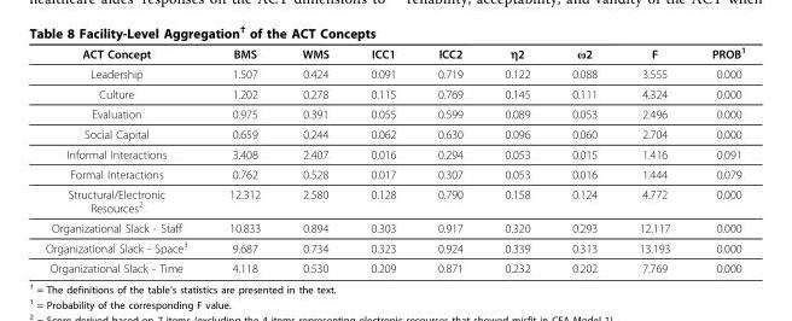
<table><thead><tr><td>ACT Concept</td><td>BMS</td><td>WMS</td><td>ICC1</td><td>ICC2</td><td>η2</td><td>ω2</td><td>F</td><td>PROB<sup>1</sup></td></tr></thead><tbody><tr><td>Leadership</td><td>1.507</td><td>0.424</td><td>0.091</td><td>0.719</td><td>0.122</td><td>0.088</td><td>3.555</td><td>0.000</td></tr><tr><td>Culture</td><td>1.202</td><td>0.278</td><td>0.115</td><td>0.769</td><td>0.145</td><td>0.111</td><td>4.324</td><td>0.000</td></tr><tr><td>Evaluation</td><td>0.975</td><td>0.391</td><td>0.055</td><td>0.599</td><td>0.089</td><td>0.053</td><td>2.496</td><td>0.000</td></tr><tr><td>Social Capital</td><td>0.659</td><td>0.244</td><td>0.062</td><td>0.630</td><td>0.096</td><td>0.060</td><td>2.704</td><td>0.000</td></tr><tr><td>Informal Interactions</td><td>3.408</td><td>2.407</td><td>0.016</td><td>0.294</td><td>0.053</td><td>0.015</td><td>1.416</td><td>0.091</td></tr><tr><td>Formal Interactions</td><td>0.762</td><td>0.528</td><td>0.017</td><td>0.307</td><td>0.053</td><td>0.016</td><td>1.444</td><td>0.079</td></tr><tr><td>Structural/Electronic Resources<sup>2</sup></td><td>12.312</td><td>2.580</td><td>0.128</td><td>0.790</td><td>0.158</td><td>0.124</td><td>4.772</td><td>0.000</td></tr><tr><td>Organizational Slack - Staff</td><td>10.833</td><td>0.894</td><td>0.303</td><td>0.917</td><td>0.320</td><td>0.293</td><td>12.117</td><td>0.000</td></tr><tr><td>Organizational Slack - Space<sup>3</sup></td><td>9.687</td><td>0.734</td><td>0.323</td><td>0.924</td><td>0.339</td><td>0.313</td><td>13.193</td><td>0.000</td></tr><tr><td>Organizational Slack - Time</td><td>4.118</td><td>0.530</td><td>0.209</td><td>0.871</td><td>0.232</td><td>0.202</td><td>7.769</td><td>0.000</td></tr></tbody></table>